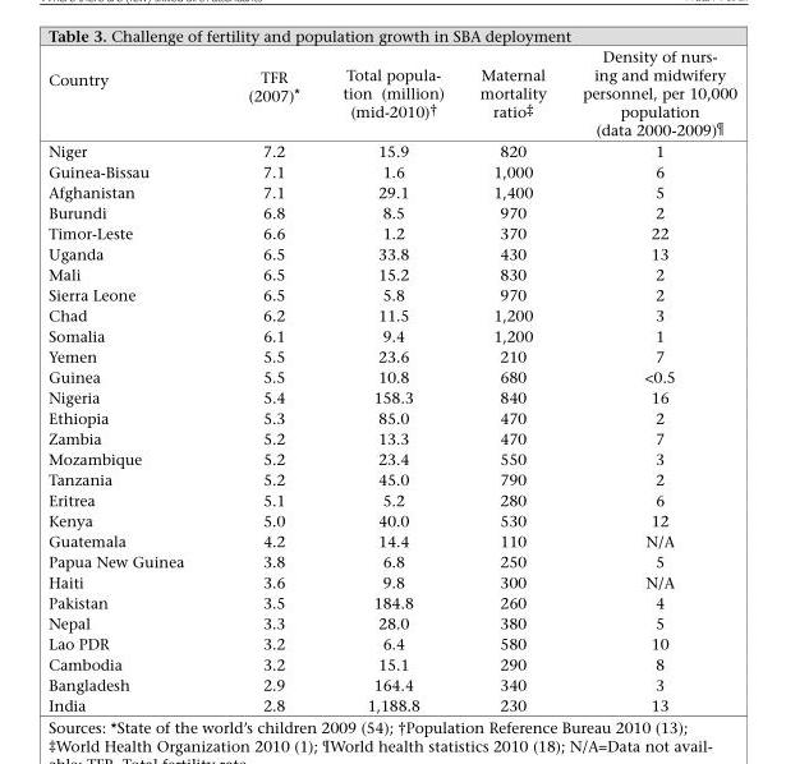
<table><thead><tr><td>Country</td><td>TFR (2007)*</td><td>Total popula- tion (million) (mid-2010)†</td><td>Maternal mortality ratio‡</td><td>Density of nurs- ing and midwifery personnel, per 10,000 population (data 2000-2009)¶</td></tr></thead><tbody><tr><td>Niger</td><td>7.2</td><td>15.9</td><td>820</td><td>1</td></tr><tr><td>Guinea-Bissau</td><td>7.1</td><td>1.6</td><td>1,000</td><td>6</td></tr><tr><td>Afghanistan</td><td>7.1</td><td>29.1</td><td>1,400</td><td>5</td></tr><tr><td>Burundi</td><td>6.8</td><td>8.5</td><td>970</td><td>2</td></tr><tr><td>Timor-Leste</td><td>6.6</td><td>1.2</td><td>370</td><td>22</td></tr><tr><td>Uganda</td><td>6.5</td><td>33.8</td><td>430</td><td>13</td></tr><tr><td>Mali</td><td>6.5</td><td>15.2</td><td>830</td><td>2</td></tr><tr><td>Sierra Leone</td><td>6.5</td><td>5.8</td><td>970</td><td>2</td></tr><tr><td>Chad</td><td>6.2</td><td>11.5</td><td>1,200</td><td>3</td></tr><tr><td>Somalia</td><td>6.1</td><td>9.4</td><td>1,200</td><td>1</td></tr><tr><td>Yemen</td><td>5.5</td><td>23.6</td><td>210</td><td>7</td></tr><tr><td>Guinea</td><td>5.5</td><td>10.8</td><td>680</td><td>&lt;0.5</td></tr><tr><td>Nigeria</td><td>5.4</td><td>158.3</td><td>840</td><td>16</td></tr><tr><td>Ethiopia</td><td>5.3</td><td>85.0</td><td>470</td><td>2</td></tr><tr><td>Zambia</td><td>5.2</td><td>13.3</td><td>470</td><td>7</td></tr><tr><td>Mozambique</td><td>5.2</td><td>23.4</td><td>550</td><td>3</td></tr><tr><td>Tanzania</td><td>5.2</td><td>45.0</td><td>790</td><td>2</td></tr><tr><td>Eritrea</td><td>5.1</td><td>5.2</td><td>280</td><td>6</td></tr><tr><td>Kenya</td><td>5.0</td><td>40.0</td><td>530</td><td>12</td></tr><tr><td>Guatemala</td><td>4.2</td><td>14.4</td><td>110</td><td>N/A</td></tr><tr><td>Papua New Guinea</td><td>3.8</td><td>6.8</td><td>250</td><td>5</td></tr><tr><td>Haiti</td><td>3.6</td><td>9.8</td><td>300</td><td>N/A</td></tr><tr><td>Pakistan</td><td>3.5</td><td>184.8</td><td>260</td><td>4</td></tr><tr><td>Nepal</td><td>3.3</td><td>28.0</td><td>380</td><td>5</td></tr><tr><td>Lao PDR</td><td>3.2</td><td>6.4</td><td>580</td><td>10</td></tr><tr><td>Cambodia</td><td>3.2</td><td>15.1</td><td>290</td><td>8</td></tr><tr><td>Bangladesh</td><td>2.9</td><td>164.4</td><td>340</td><td>3</td></tr><tr><td>India</td><td>2.8</td><td>1,188.8</td><td>230</td><td>13</td></tr></tbody></table>